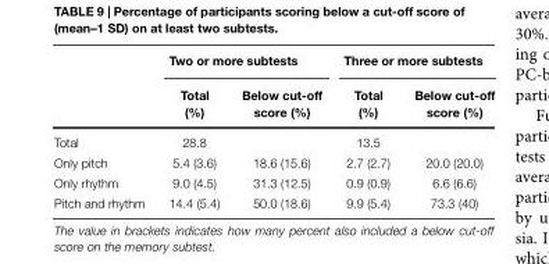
<table><thead><tr><td rowspan="2"></td><td colspan="2">Two or more subtests</td><td colspan="2">Three or more subtests</td></tr><tr><td>Total (%)</td><td>Below cut-off score (%)</td><td>Total (%)</td><td>Below cut-off score (%)</td></tr></thead><tbody><tr><td>Total</td><td>28.8</td><td></td><td>13.5</td><td></td></tr><tr><td>Only pitch</td><td>5.4 (3.6)</td><td>18.6 (15.6)</td><td>2.7 (2.7)</td><td>20.0 (20.0)</td></tr><tr><td>Only rhythm</td><td>9.0 (4.5)</td><td>31.3 (12.5)</td><td>0.9 (0.9)</td><td>6.6 (6.6)</td></tr><tr><td>Pitch and rhythm</td><td>14.4 (5.4)</td><td>50.0 (18.6)</td><td>9.9 (5.4)</td><td>73.3 (40)</td></tr></tbody></table>